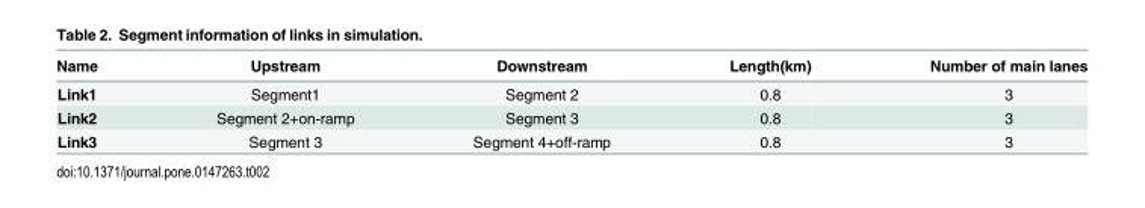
<table><thead><tr><td>Name</td><td>Upstream</td><td>Downstream</td><td>Length(km)</td><td>Number of main lanes</td></tr></thead><tbody><tr><td>Link1</td><td>Segment1</td><td>Segment 2</td><td>0.8</td><td>3</td></tr><tr><td>Link2</td><td>Segment 2+on-ramp</td><td>Segment 3</td><td>0.8</td><td>3</td></tr><tr><td>Link3</td><td>Segment 3</td><td>Segment 4+off-ramp</td><td>0.8</td><td>3</td></tr></tbody></table>